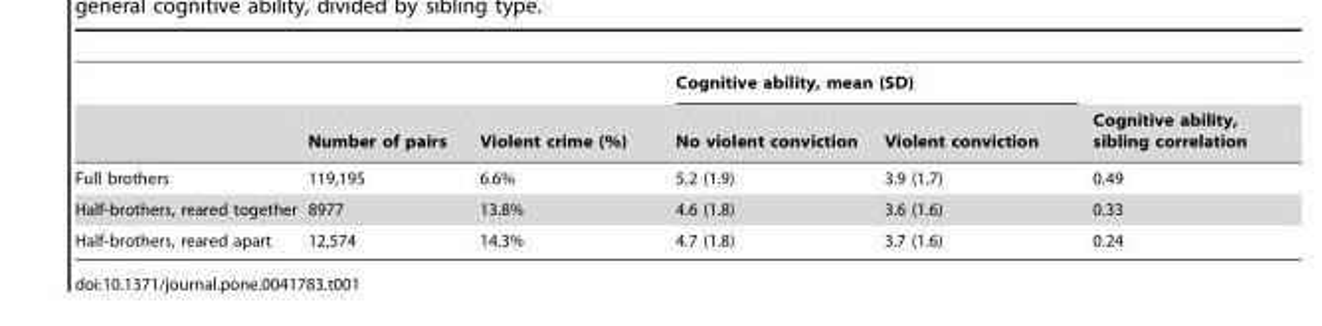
<table><thead><tr><td rowspan="2"></td><td rowspan="2">Number of pairs</td><td rowspan="2">Violent crime (%)</td><td colspan="2">Cognitive ability, mean (SD)</td><td rowspan="2">Cognitive ability, sibling correlation</td></tr><tr><td>No violent conviction</td><td>Violent conviction</td></tr></thead><tbody><tr><td>Full brothers</td><td>119,195</td><td>6.6%</td><td>5.2 (1.9)</td><td>3.9 (1.7)</td><td>0.49</td></tr><tr><td>Half-brothers, reared together</td><td>8977</td><td>13.8%</td><td>4.6 (1.8)</td><td>3.6 (1.6)</td><td>0.33</td></tr><tr><td>Half-brothers, reared apart</td><td>12,574</td><td>14.3%</td><td>4.7 (1.8)</td><td>3.7 (1.6)</td><td>0.24</td></tr></tbody></table>